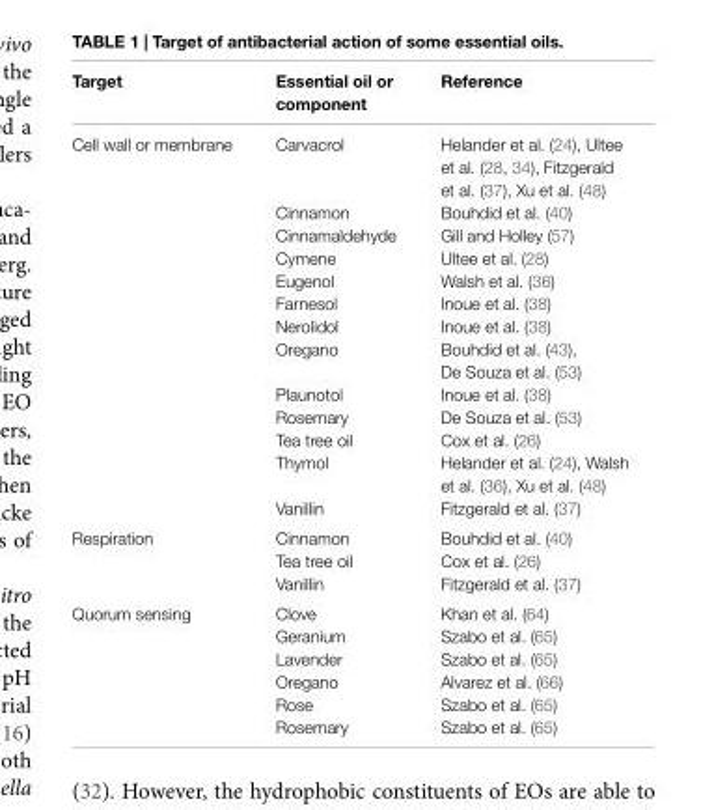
<table><thead><tr><td>Target</td><td>essential oil or component</td><td>Reference</td></tr></thead><tbody><tr><td rowspan="13">Cell wall or membrane</td><td>Carvacrol</td><td>Helander et al. (24), Ultee et al. (28, 34), Fitzgerald et al. (37), Xu et al. (48)</td></tr><tr><td>Cinnamon</td><td>Bouhdid et al. (40)</td></tr><tr><td>Cinnamaldehyde</td><td>Gill and Holley (57)</td></tr><tr><td>Cymene</td><td>Ultee et al. (28)</td></tr><tr><td>Eugenol</td><td>Walsh et al. (36)</td></tr><tr><td>Farnesol</td><td>Inoue et al. (38)</td></tr><tr><td>Nerolidol</td><td>Inoue et al. (38)</td></tr><tr><td>Oregano</td><td>Bouhdid et al. (43), De Souza et al. (53)</td></tr><tr><td>Plaunotol</td><td>Inoue et al. (38)</td></tr><tr><td>Rosemary</td><td>De Souza et al. (53)</td></tr><tr><td>Tea tree oil</td><td>Cox et al. (26)</td></tr><tr><td>Thymol</td><td>Helander et al. (24), Walsh et al. (36), Xu et al. (48)</td></tr><tr><td>Vanillin</td><td>Fitzgerald et al. (37)</td></tr><tr><td rowspan="3">Respiration</td><td>Cinnamon</td><td>Bouhdid et al. (40)</td></tr><tr><td>Tea tree oil</td><td>Cox et al. (26)</td></tr><tr><td>Vanillin</td><td>Fitzgerald et al. (37)</td></tr><tr><td rowspan="6">Quorum sensing</td><td>Clove</td><td>Khan et al. (64)</td></tr><tr><td>Geranium</td><td>Szabo et al. (65)</td></tr><tr><td>Lavender</td><td>Szabo et al. (65)</td></tr><tr><td>Oregano</td><td>Alvarez et al. (66)</td></tr><tr><td>Rose</td><td>Szabo et al. (65)</td></tr><tr><td>Rosemary</td><td>Szabo et al. (65)</td></tr></tbody></table>